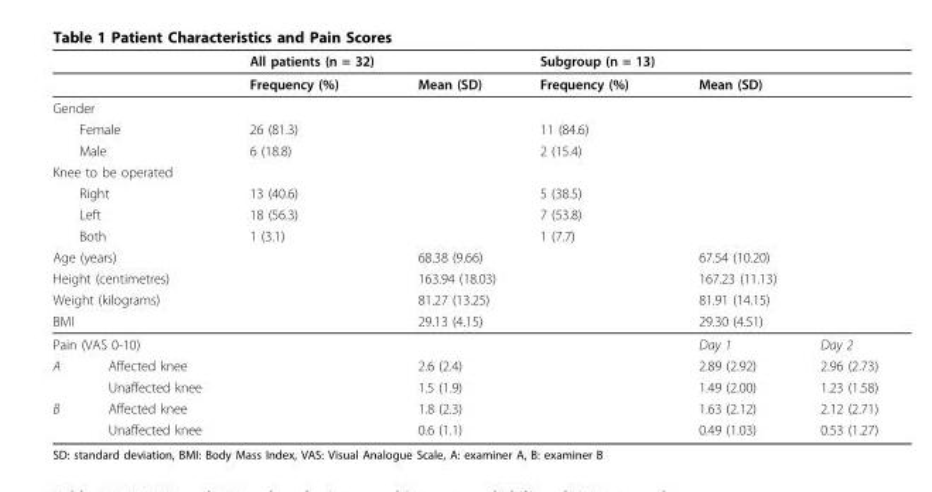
<table><thead><tr><td></td><td></td><td>All patients (n = 32)</td><td></td><td>Subgroup (n = 13)</td><td></td><td></td></tr></thead><tbody><tr><td colspan="2"></td><td>Frequency (%)</td><td>Mean (SD)</td><td>Frequency (%)</td><td>Mean (SD)</td><td></td></tr><tr><td colspan="7">Gender</td></tr><tr><td colspan="2">Female</td><td>26 (81.3)</td><td></td><td>11 (84.6)</td><td></td><td></td></tr><tr><td colspan="2">Male</td><td>6 (18.8)</td><td></td><td>2 (15.4)</td><td></td><td></td></tr><tr><td colspan="7">Knee to be operated</td></tr><tr><td colspan="2">Right</td><td>13 (40.6)</td><td></td><td>5 (38.5)</td><td></td><td></td></tr><tr><td colspan="2">Left</td><td>18 (56.3)</td><td></td><td>7 (53.8)</td><td></td><td></td></tr><tr><td colspan="2">Both</td><td>1 (3.1)</td><td></td><td>1 (7.7)</td><td></td><td></td></tr><tr><td colspan="2">Age (years)</td><td></td><td>68.38 (9.66)</td><td></td><td>67.54 (10.20)</td><td></td></tr><tr><td colspan="2">Height (centimetres)</td><td></td><td>163.94 (18.03)</td><td></td><td>167.23 (11.13)</td><td></td></tr><tr><td colspan="2">Weight (kilograms)</td><td></td><td>81.27 (13.25)</td><td></td><td>81.91 (14.15)</td><td></td></tr><tr><td colspan="2">BMI</td><td></td><td>29.13 (4.15)</td><td></td><td>29.30 (4.51)</td><td></td></tr><tr><td colspan="2">Pain (VAS 0-10)</td><td></td><td></td><td></td><td>Day 1</td><td>Day 2</td></tr><tr><td rowspan="2">A</td><td>Affected knee</td><td></td><td>2.6 (2.4)</td><td></td><td>2.89 (2.92)</td><td>2.96 (2.73)</td></tr><tr><td>Unaffected knee</td><td></td><td>1.5 (1.9)</td><td></td><td>1.49 (2.00)</td><td>1.23 (1.58)</td></tr><tr><td rowspan="2">B</td><td>Affected knee</td><td></td><td>1.8 (2.3)</td><td></td><td>1.63 (2.12)</td><td>2.12 (2.71)</td></tr><tr><td>Unaffected knee</td><td></td><td>0.6 (1.1)</td><td></td><td>0.49 (1.03)</td><td>0.53 (1.27)</td></tr></tbody></table>